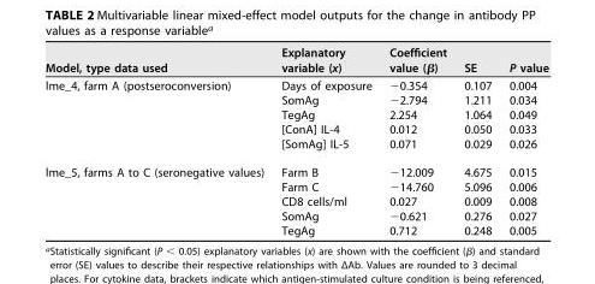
<table><thead><tr><td>Model, type data used</td><td>Explanatory variable (x)</td><td>Coefficient value (β)</td><td>SE</td><td>P value</td></tr></thead><tbody><tr><td rowspan="5">lme_4, farm A (postseroconversion)</td><td>Days of exposure</td><td>−0.354</td><td>0.107</td><td>0.004</td></tr><tr><td>SomAg</td><td>−2.794</td><td>1.211</td><td>0.034</td></tr><tr><td>TegAg</td><td>2.254</td><td>1.064</td><td>0.049</td></tr><tr><td>[ConA] IL-4</td><td>0.012</td><td>0.050</td><td>0.033</td></tr><tr><td>[SomAg] IL-5</td><td>0.071</td><td>0.029</td><td>0.026</td></tr><tr><td rowspan="5">lme_5, farms A to C (seronegative values)</td><td>Farm B</td><td>−12.009</td><td>4.675</td><td>0.015</td></tr><tr><td>Farm C</td><td>−14.760</td><td>5.096</td><td>0.006</td></tr><tr><td>CD8 cells/ml</td><td>0.027</td><td>0.009</td><td>0.008</td></tr><tr><td>SomAg</td><td>−0.621</td><td>0.276</td><td>0.027</td></tr><tr><td>TegAg</td><td>0.712</td><td>0.248</td><td>0.005</td></tr></tbody></table>